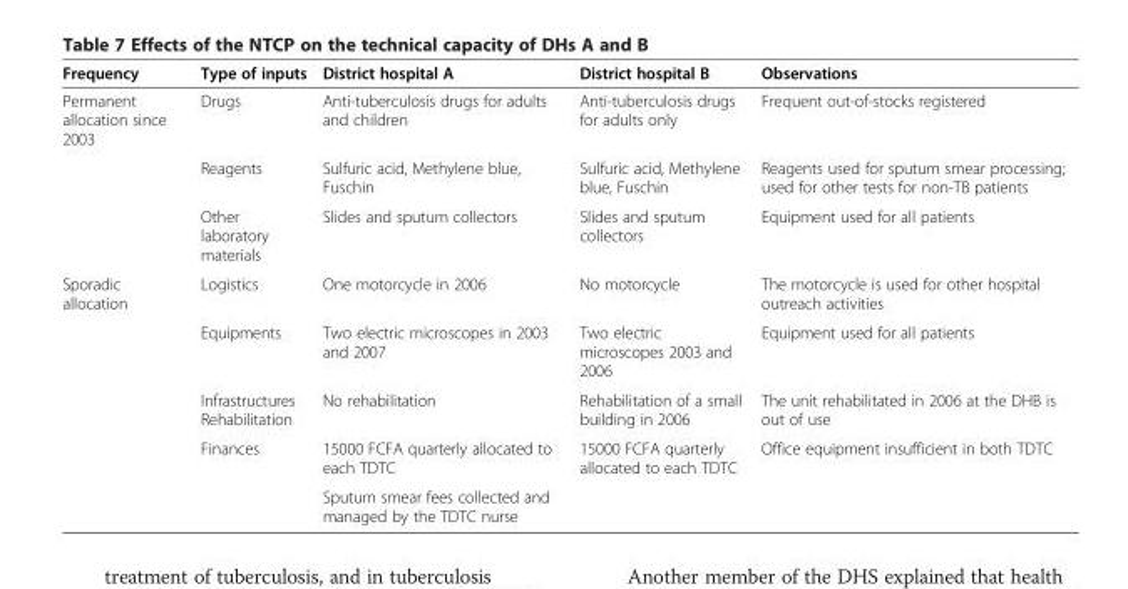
<table><thead><tr><td>Frequency</td><td>Type of inputs</td><td>District hospital A</td><td>District hospital B</td><td>Observations</td></tr></thead><tbody><tr><td rowspan="3">Permanent allocation since 2003</td><td>Drugs</td><td>Anti-tuberculosis drugs for adults and children</td><td>Anti-tuberculosis drugs for adults only</td><td>Frequent out-of-stocks registered</td></tr><tr><td>Reagents</td><td>Sulfuric acid, Methylene blue, Fuschin</td><td>Sulfuric acid, Methylene blue, Fuschin</td><td>Reagents used for sputum smear processing; used for other tests for non-TB patients</td></tr><tr><td>Other laboratory materials</td><td>Slides and sputum collectors</td><td>Slides and sputum collectors</td><td>Equipment used for all patients</td></tr><tr><td rowspan="5">Sporadic allocation</td><td>Logistics</td><td>One motorcycle in 2006</td><td>No motorcycle</td><td>The motorcycle is used for other hospital outreach activities</td></tr><tr><td>Equipments</td><td>Two electric microscopes in 2003 and 2007</td><td>Two electric microscopes 2003 and 2006</td><td>Equipment used for all patients</td></tr><tr><td>Infrastructures Rehabilitation</td><td>No rehabilitation</td><td>Rehabilitation of a small building in 2006</td><td>The unit rehabilitated in 2006 at the DHB is out of use</td></tr><tr><td>Finances</td><td>15000 FCFA quarterly allocated to each TDTC</td><td>15000 FCFA quarterly allocated to each TDTC</td><td>Office equipment insufficient in both TDTC</td></tr><tr><td></td><td>Sputum smear fees collected and managed by the TDTC nurse</td><td></td><td></td></tr></tbody></table>